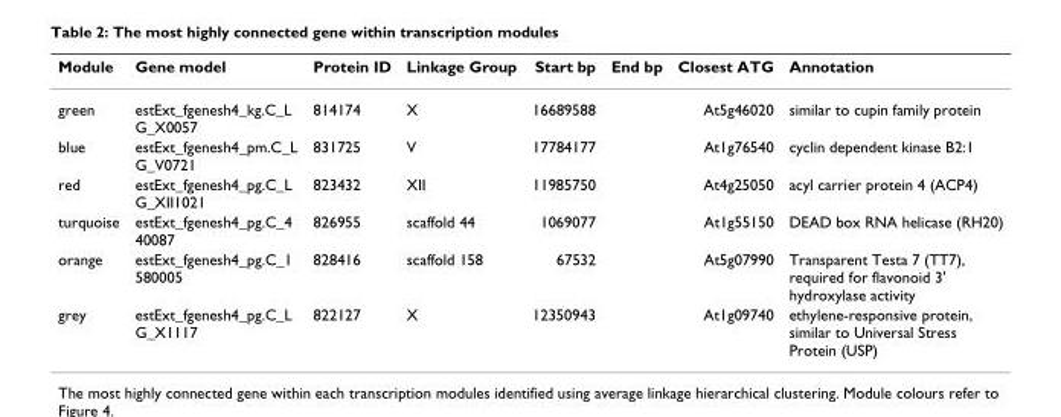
<table><thead><tr><td>Module</td><td>Gene model</td><td>Protein ID</td><td>Linkage Group</td><td>Start bp</td><td>End bp</td><td>Closest ATG</td><td>Annotation</td></tr></thead><tbody><tr><td>green</td><td>estExt_fgenesh4_kg.C_L G_X0057</td><td>814174</td><td>X</td><td>16689588</td><td></td><td>At5g46020</td><td>similar to cupin family protein</td></tr><tr><td>blue</td><td>estExt_fgenesh4_pm.C_L G_V0721</td><td>831725</td><td>V</td><td>17784177</td><td></td><td>At1g76540</td><td>cyclin dependent kinase B2:1</td></tr><tr><td>red</td><td>estExt_fgenesh4_pg.C_L G_XII1021</td><td>823432</td><td>XII</td><td>11985750</td><td></td><td>At4g25050</td><td>acyl carrier protein 4 (ACP4)</td></tr><tr><td>turquoise</td><td>estExt_fgenesh4_pg.C_4 40087</td><td>826955</td><td>scaffold 44</td><td>1069077</td><td></td><td>At1g55150</td><td>DEAD box RNA helicase (RH20)</td></tr><tr><td>orange</td><td>estExt_fgenesh4_pg.C_1 580005</td><td>828416</td><td>scaffold 158</td><td>67532</td><td></td><td>At5g07990</td><td>Transparent Testa 7 (TT7), required for flavonoid 3&#x27; hydroxylase activity</td></tr><tr><td>grey</td><td>estExt_fgenesh4_pg.C_L G_X1117</td><td>822127</td><td>X</td><td>12350943</td><td></td><td>At1g09740</td><td>ethylene-responsive protein, similar to Universal Stress Protein (USP)</td></tr></tbody></table>